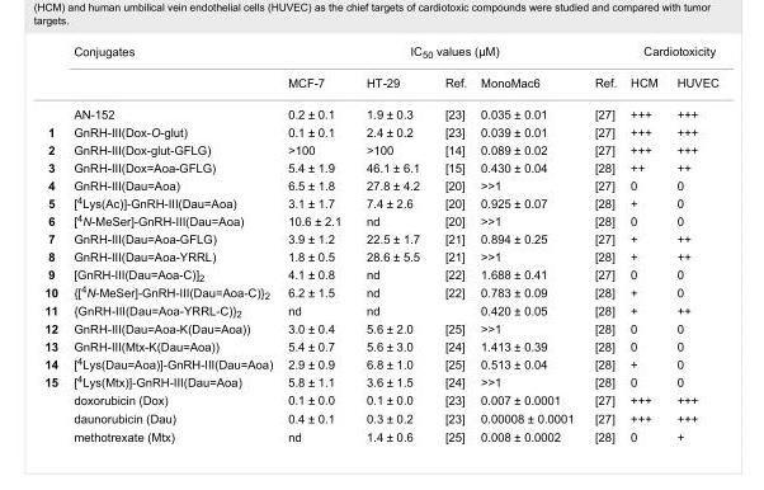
<table><thead><tr><td rowspan="2"></td><td rowspan="2">Conjugates</td><td colspan="5">IC<sub>50</sub> values (μM)</td><td colspan="2">Cardiotoxicity</td></tr><tr><td>MCF-7</td><td>HT-29</td><td>Ref.</td><td>MonoMac6</td><td>Ref.</td><td>HCM</td><td>HUVEC</td></tr></thead><tbody><tr><td></td><td>AN-152</td><td>0.2 ± 0.1</td><td>1.9 ± 0.3</td><td>[23]</td><td>0.035 ± 0.01</td><td>[27]</td><td>+++</td><td>+++</td></tr><tr><td>1</td><td>GnRH-III(Dox-O-glut)</td><td>0.1 ± 0.1</td><td>2.4 ± 0.2</td><td>[23]</td><td>0.039 ± 0.01</td><td>[27]</td><td>+++</td><td>+++</td></tr><tr><td>2</td><td>GnRH-III(Dox-glut-GFLG)</td><td>&gt;100</td><td>&gt;100</td><td>[14]</td><td>0.089 ± 0.02</td><td>[27]</td><td>+++</td><td>+++</td></tr><tr><td>3</td><td>GnRH-III(Dox=Aoa-GFLG)</td><td>5.4 ± 1.9</td><td>46.1 ± 6.1</td><td>[15]</td><td>0.430 ± 0.04</td><td>[28]</td><td>++</td><td>++</td></tr><tr><td>4</td><td>GnRH-III(Dau=Aoa)</td><td>6.5 ± 1.8</td><td>27.8 ± 4.2</td><td>[20]</td><td>&gt;&gt;1</td><td>[27]</td><td>0</td><td>0</td></tr><tr><td>5</td><td>[<sup>4</sup>Lys(Ac)]-GnRH-III(Dau=Aoa)</td><td>3.1 ± 1.7</td><td>7.4 ± 2.6</td><td>[20]</td><td>0.925 ± 0.07</td><td>[28]</td><td>+</td><td>0</td></tr><tr><td>6</td><td>[<sup>4</sup>N-MeSer]-GnRH-III(Dau=Aoa)</td><td>10.6 ± 2.1</td><td>nd</td><td>[20]</td><td>&gt;&gt;1</td><td>[28]</td><td>0</td><td>0</td></tr><tr><td>7</td><td>GnRH-III(Dau=Aoa-GFLG)</td><td>3.9 ± 1.2</td><td>22.5 ± 1.7</td><td>[21]</td><td>0.894 ± 0.25</td><td>[27]</td><td>+</td><td>++</td></tr><tr><td>8</td><td>GnRH-III(Dau=Aoa-YRRL)</td><td>1.8 ± 0.5</td><td>28.6 ± 5.5</td><td>[21]</td><td>&gt;&gt;1</td><td>[28]</td><td>+</td><td>++</td></tr><tr><td>9</td><td>[GnRH-III(Dau=Aoa-C)]<sub>2</sub></td><td>4.1 ± 0.8</td><td>nd</td><td>[22]</td><td>1.688 ± 0.41</td><td>[27]</td><td>0</td><td>0</td></tr><tr><td>10</td><td>{[<sup>4</sup>N-MeSer]-GnRH-III(Dau=Aoa-C)}<sub>2</sub></td><td>6.2 ± 1.5</td><td>nd</td><td>[22]</td><td>0.783 ± 0.09</td><td>[28]</td><td>+</td><td>0</td></tr><tr><td>11</td><td>{GnRH-III(Dau=Aoa-YRRL-C)}<sub>2</sub></td><td>nd</td><td>nd</td><td></td><td>0.420 ± 0.05</td><td>[28]</td><td>+</td><td>++</td></tr><tr><td>12</td><td>GnRH-III(Dau=Aoa-K(Dau=Aoa))</td><td>3.0 ± 0.4</td><td>5.6 ± 2.0</td><td>[25]</td><td>&gt;&gt;1</td><td>[28]</td><td>0</td><td>0</td></tr><tr><td>13</td><td>GnRH-III(Mtx-K(Dau=Aoa))</td><td>5.4 ± 0.7</td><td>5.6 ± 3.0</td><td>[24]</td><td>1.413 ± 0.39</td><td>[28]</td><td>0</td><td>0</td></tr><tr><td>14</td><td>[<sup>4</sup>Lys(Dau=Aoa)]-GnRH-III(Dau=Aoa)</td><td>2.9 ± 0.9</td><td>6.8 ± 1.0</td><td>[25]</td><td>0.513 ± 0.04</td><td>[28]</td><td>+</td><td>0</td></tr><tr><td rowspan="4">15</td><td>[<sup>4</sup>Lys(Mtx)]-GnRH-III(Dau=Aoa)</td><td>5.8 ± 1.1</td><td>3.6 ± 1.5</td><td>[24]</td><td>&gt;&gt;1</td><td>[28]</td><td>0</td><td>0</td></tr><tr><td>doxorubicin (Dox)</td><td>0.1 ± 0.0</td><td>0.1 ± 0.0</td><td>[23]</td><td>0.007 ± 0.0001</td><td>[27]</td><td>+++</td><td>+++</td></tr><tr><td>daunorubicin (Dau)</td><td>0.4 ± 0.1</td><td>0.3 ± 0.2</td><td>[23]</td><td>0.00008 ± 0.0001</td><td>[27]</td><td>+++</td><td>+++</td></tr><tr><td>methotrexate (Mtx)</td><td>nd</td><td>1.4 ± 0.6</td><td>[25]</td><td>0.008 ± 0.0002</td><td>[28]</td><td>0</td><td>+</td></tr></tbody></table>